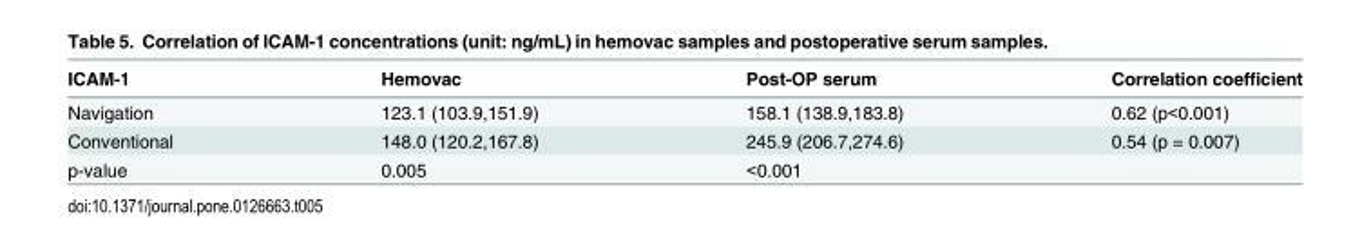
<table><thead><tr><td>ICAM-1</td><td>Hemovac</td><td>Post-OP serum</td><td>Correlation coefficient</td></tr></thead><tbody><tr><td>Navigation</td><td>123.1 (103.9,151.9)</td><td>158.1 (138.9,183.8)</td><td>0.62 (p&lt;0.001)</td></tr><tr><td>Conventional</td><td>148.0 (120.2,167.8)</td><td>245.9 (206.7,274.6)</td><td>0.54 (p = 0.007)</td></tr><tr><td>p-value</td><td>0.005</td><td>&lt;0.001</td><td></td></tr></tbody></table>